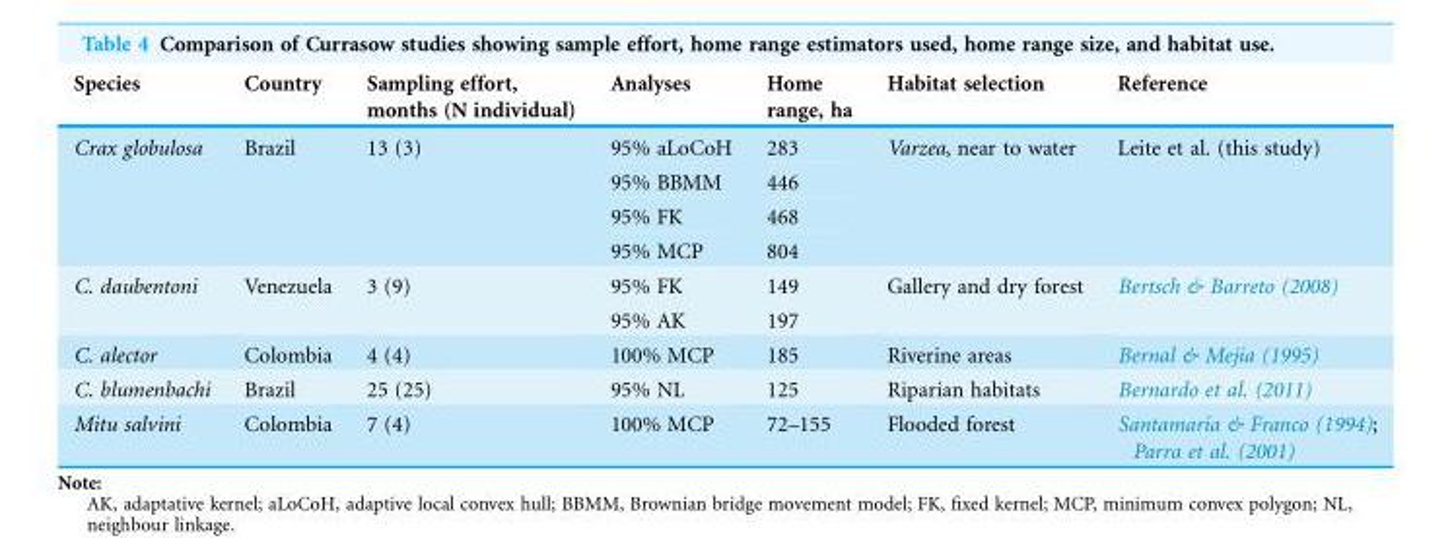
<table><thead><tr><td>Species</td><td>Country</td><td>Sampling effort, months (N individual)</td><td>Analyses</td><td>Home range, ha</td><td>Habitat selection</td><td>Reference</td></tr></thead><tbody><tr><td rowspan="4">Crax globulosa</td><td rowspan="4">Brazil</td><td rowspan="4">13 (3)</td><td>95% aLoCoH</td><td>283</td><td rowspan="4">Varzea, near to water</td><td rowspan="4">Leite et al. (this study)</td></tr><tr><td>95% BBMM</td><td>446</td></tr><tr><td>95% FK</td><td>468</td></tr><tr><td>95% MCP</td><td>804</td></tr><tr><td rowspan="2">C. daubentoni</td><td rowspan="2">Venezuela</td><td rowspan="2">3 (9)</td><td>95% FK</td><td>149</td><td rowspan="2">Gallery and dry forest</td><td rowspan="2">Bertsch &amp; Barreto (2008)</td></tr><tr><td>95% AK</td><td>197</td></tr><tr><td>C. alector</td><td>Colombia</td><td>4 (4)</td><td>100% MCP</td><td>185</td><td>Riverine areas</td><td>Bernal &amp; Mejı´a (1995)</td></tr><tr><td>C. blumenbachi</td><td>Brazil</td><td>25 (25)</td><td>95% NL</td><td>125</td><td>Riparian habitats</td><td>Bernardo et al. (2011)</td></tr><tr><td>Mitu salvini</td><td>Colombia</td><td>7 (4)</td><td>100% MCP</td><td>72–155</td><td>Flooded forest</td><td>Santamarı´a &amp; Franco (1994); Parra et al. (2001)</td></tr></tbody></table>